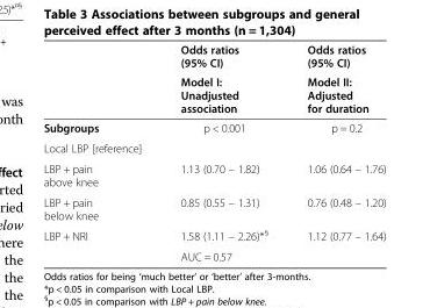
<table><thead><tr><td rowspan="2"></td><td rowspan="2">Odds ratios (95% CI) Model I: Unadjusted association</td><td rowspan="2">Odds ratios (95% CI) Model II: Adjusted for duration</td></tr><tr></tr></thead><tbody><tr><td>Subgroups</td><td>p &lt; 0.001</td><td>p = 0.2</td></tr><tr><td colspan="3">Local LBP [reference]</td></tr><tr><td>LBP + pain above knee</td><td>1.13 (0.70 – 1.82)</td><td>1.06 (0.64 – 1.76)</td></tr><tr><td>LBP + pain below knee</td><td>0.85 (0.55 – 1.31)</td><td>0.76 (0.48 – 1.20)</td></tr><tr><td rowspan="2">LBP + NRI</td><td>1.58 (1.11 – 2.26)*<sup>§</sup></td><td>1.12 (0.77 – 1.64)</td></tr><tr><td>AUC = 0.57</td><td></td></tr></tbody></table>